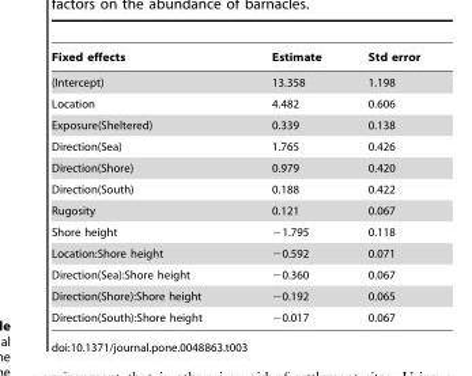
<table><thead><tr><td>Fixed effects</td><td>Estimate</td><td>Std error</td></tr></thead><tbody><tr><td>(Intercept)</td><td>13.358</td><td>1.198</td></tr><tr><td>Location</td><td>4.482</td><td>0.606</td></tr><tr><td>Exposure(Sheltered)</td><td>0.339</td><td>0.138</td></tr><tr><td>Direction(Sea)</td><td>1.765</td><td>0.426</td></tr><tr><td>Direction(Shore)</td><td>0.979</td><td>0.420</td></tr><tr><td>Direction(South)</td><td>0.188</td><td>0.422</td></tr><tr><td>Rugosity</td><td>0.121</td><td>0.067</td></tr><tr><td>Shore height</td><td>−1.795</td><td>0.118</td></tr><tr><td>Location:Shore height</td><td>−0.592</td><td>0.071</td></tr><tr><td>Direction(Sea):Shore height</td><td>−0.360</td><td>0.067</td></tr><tr><td>Direction(Shore):Shore height</td><td>−0.192</td><td>0.065</td></tr><tr><td>Direction(South):Shore height</td><td>−0.017</td><td>0.067</td></tr></tbody></table>